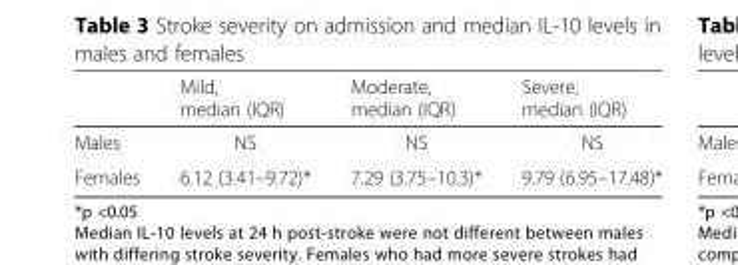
<table><thead><tr><td></td><td>Mild, median (IQR)</td><td>Moderate, median (IQR)</td><td>Severe, median (IQR)</td></tr></thead><tbody><tr><td>Males</td><td>NS</td><td>NS</td><td>NS</td></tr><tr><td>Females</td><td>6.12 (3.41–9.72)*</td><td>7.29 (3.75–10.3)*</td><td>9.79 (6.95–17.48)*</td></tr></tbody></table>